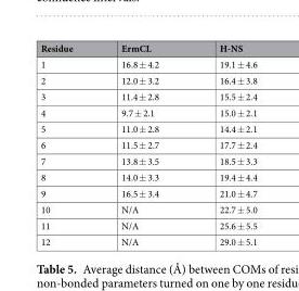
<table><thead><tr><td>Residue</td><td>ErmCL</td><td>H-NS</td></tr></thead><tbody><tr><td>1</td><td>16.8 ± 4.2</td><td>19.1 ± 4.6</td></tr><tr><td>2</td><td>12.0 ± 3.2</td><td>16.4 ± 3.8</td></tr><tr><td>3</td><td>11.4 ± 2.8</td><td>15.5 ± 2.4</td></tr><tr><td>4</td><td>9.7 ± 2.1</td><td>15.0 ± 2.1</td></tr><tr><td>5</td><td>11.0 ± 2.8</td><td>14.4 ± 2.1</td></tr><tr><td>6</td><td>11.5 ± 2.7</td><td>17.7 ± 2.4</td></tr><tr><td>7</td><td>13.8 ± 3.5</td><td>18.5 ± 3.3</td></tr><tr><td>8</td><td>14.0 ± 3.3</td><td>19.4 ± 4.4</td></tr><tr><td>9</td><td>16.5 ± 3.4</td><td>21.0 ± 4.7</td></tr><tr><td>10</td><td>N/A</td><td>22.7 ± 5.0</td></tr><tr><td>11</td><td>N/A</td><td>25.6 ± 5.5</td></tr><tr><td>12</td><td>N/A</td><td>29.0 ± 5.1</td></tr></tbody></table>